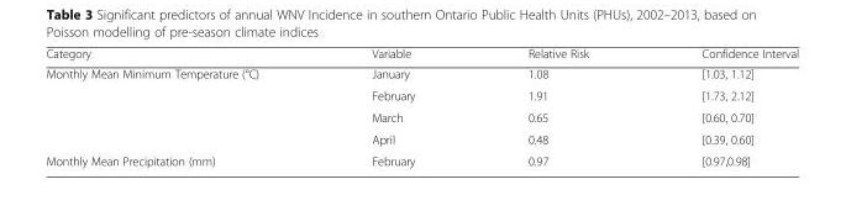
<table><thead><tr><td>Category</td><td>Variable</td><td>Relative Risk</td><td>Confidence Interval</td></tr></thead><tbody><tr><td rowspan="4">Monthly Mean Minimum Temperature (°C)</td><td>January</td><td>1.08</td><td>[1.03, 1.12]</td></tr><tr><td>February</td><td>1.91</td><td>[1.73, 2.12]</td></tr><tr><td>March</td><td>0.65</td><td>[0.60, 0.70]</td></tr><tr><td>April</td><td>0.48</td><td>[0.39, 0.60]</td></tr><tr><td>Monthly Mean Precipitation (mm)</td><td>February</td><td>0.97</td><td>[0.97,0.98]</td></tr></tbody></table>